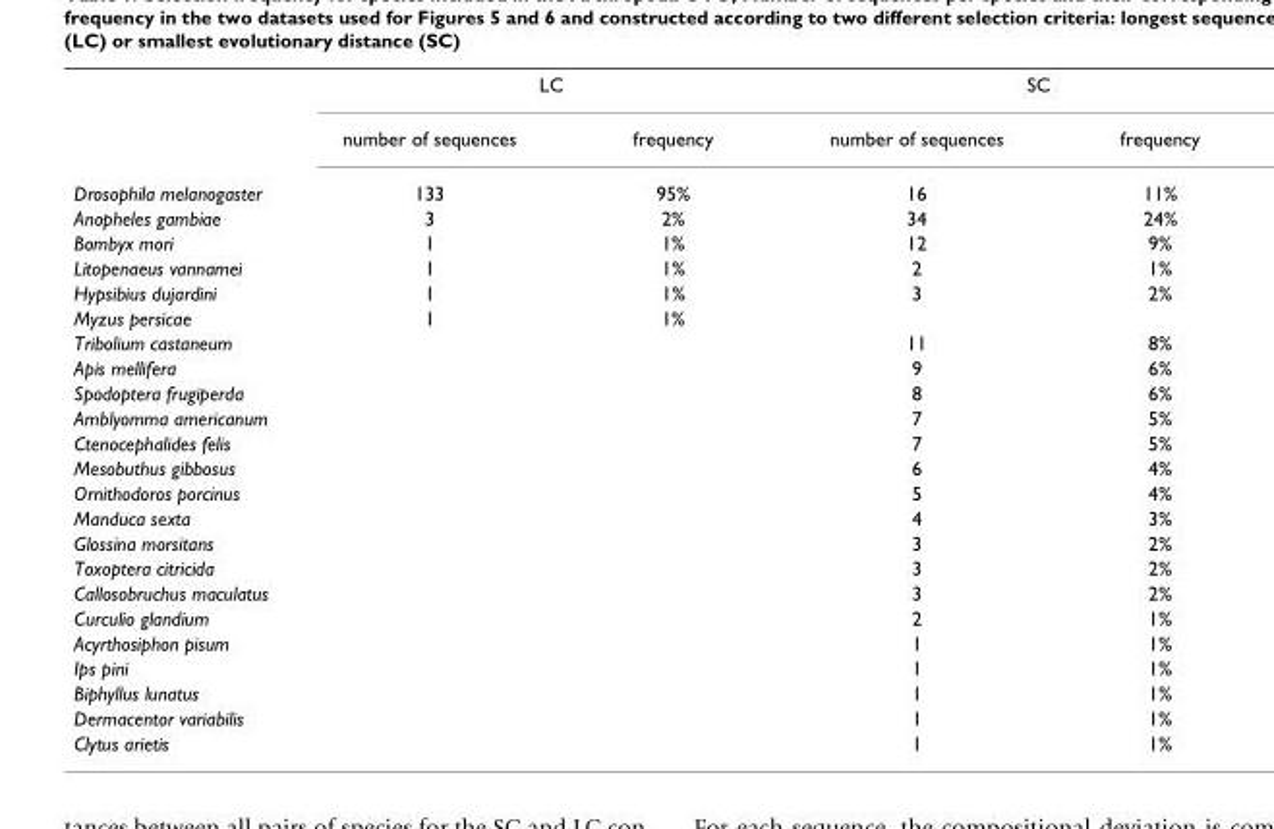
<table><thead><tr><td rowspan="2"></td><td colspan="2">LC</td><td colspan="2">SC</td></tr><tr><td>number of sequences</td><td>frequency</td><td>number of sequences</td><td>frequency</td></tr></thead><tbody><tr><td>Drosophila melanogaster</td><td>133</td><td>95%</td><td>16</td><td>11%</td></tr><tr><td>Anopheles gambiae</td><td>3</td><td>2%</td><td>34</td><td>24%</td></tr><tr><td>Bombyx mori</td><td>1</td><td>1%</td><td>12</td><td>9%</td></tr><tr><td>Litopenaeus vannamei</td><td>1</td><td>1%</td><td>2</td><td>1%</td></tr><tr><td>Hypsibius dujardini</td><td>1</td><td>1%</td><td>3</td><td>2%</td></tr><tr><td>Myzus persicae</td><td>1</td><td>1%</td><td></td><td></td></tr><tr><td>Tribolium castaneum</td><td></td><td></td><td>11</td><td>8%</td></tr><tr><td>Apis mellifera</td><td></td><td></td><td>9</td><td>6%</td></tr><tr><td>Spodoptera frugiperda</td><td></td><td></td><td>8</td><td>6%</td></tr><tr><td>Amblyomma americanum</td><td></td><td></td><td>7</td><td>5%</td></tr><tr><td>Ctenocephalides felis</td><td></td><td></td><td>7</td><td>5%</td></tr><tr><td>Mesobuthus gibbosus</td><td></td><td></td><td>6</td><td>4%</td></tr><tr><td>Ornithodoros porcinus</td><td></td><td></td><td>5</td><td>4%</td></tr><tr><td>Manduca sexta</td><td></td><td></td><td>4</td><td>3%</td></tr><tr><td>Glossina morsitans</td><td></td><td></td><td>3</td><td>2%</td></tr><tr><td>Toxoptera citricida</td><td></td><td></td><td>3</td><td>2%</td></tr><tr><td>Callosobruchus maculatus</td><td></td><td></td><td>3</td><td>2%</td></tr><tr><td>Curculio glandium</td><td></td><td></td><td>2</td><td>1%</td></tr><tr><td>Acyrthosiphon pisum</td><td></td><td></td><td>1</td><td>1%</td></tr><tr><td>Ips pini</td><td></td><td></td><td>1</td><td>1%</td></tr><tr><td>Biphyllus lunatus</td><td></td><td></td><td>1</td><td>1%</td></tr><tr><td>Dermacentor variabilis</td><td></td><td></td><td>1</td><td>1%</td></tr><tr><td>Clytus arietis</td><td></td><td></td><td>1</td><td>1%</td></tr></tbody></table>